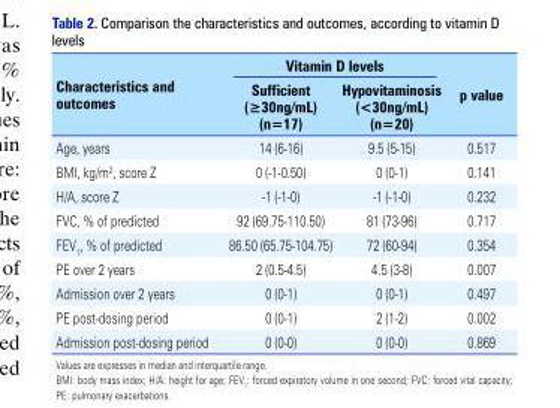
<table><thead><tr><td rowspan="2">Characteristics and outcomes</td><td colspan="2">Vitamin D levels</td><td rowspan="2">p value</td></tr><tr><td>Sufficient (≥30ng/mL) (n=17)</td><td>Hypovitaminosis (&lt;30ng/mL) (n=20)</td></tr></thead><tbody><tr><td>Age, years</td><td>14 (6-16)</td><td>9.5 (5-15)</td><td>0.517</td></tr><tr><td>BMI, kg/m<sup>2</sup>, score Z</td><td>0 (-1-0.50)</td><td>0 (0-1)</td><td>0.141</td></tr><tr><td>H/A, score Z</td><td>-1 (-1-0)</td><td>-1 (-1-0)</td><td>0.232</td></tr><tr><td>FVC, % of predicted</td><td>92 (69.75-110.50)</td><td>81 (73-96)</td><td>0.717</td></tr><tr><td>FEV<sub>1</sub>, % of predicted</td><td>86.50 (65.75-104.75)</td><td>72 (60-94)</td><td>0.354</td></tr><tr><td>PE over 2 years</td><td>2 (0.5-4.5)</td><td>4.5 (3-8)</td><td>0.007</td></tr><tr><td>Admission over 2 years</td><td>0 (0-1)</td><td>0 (0-1)</td><td>0.497</td></tr><tr><td>PE post-dosing period</td><td>0 (0-1)</td><td>2 (1-2)</td><td>0.002</td></tr><tr><td>Admission post-dosing period</td><td>0 (0-0)</td><td>0 (0-0)</td><td>0.869</td></tr></tbody></table>